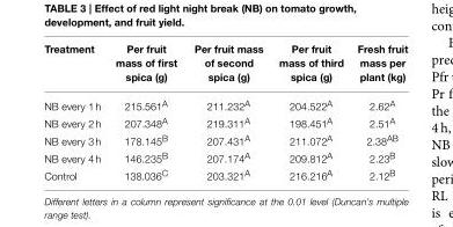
<table><thead><tr><td>Treatment</td><td>Per fruit mass of first spica (g)</td><td>Per fruit mass of second spica (g)</td><td>Per fruit mass of third spica (g)</td><td>Fresh fruit mass per plant (kg)</td></tr></thead><tbody><tr><td>NB every 1 h</td><td>215.561<sup>A</sup></td><td>211.232<sup>A</sup></td><td>204.522<sup>A</sup></td><td>2.62<sup>A</sup></td></tr><tr><td>NB every 2 h</td><td>207.348<sup>A</sup></td><td>219.311<sup>A</sup></td><td>198.451<sup>A</sup></td><td>2.51<sup>A</sup></td></tr><tr><td>NB every 3 h</td><td>178.145<sup>B</sup></td><td>207.431<sup>A</sup></td><td>211.072<sup>A</sup></td><td>2.38<sup>AB</sup></td></tr><tr><td>NB every 4 h</td><td>146.235<sup>B</sup></td><td>207.174<sup>A</sup></td><td>209.812<sup>A</sup></td><td>2.23<sup>B</sup></td></tr><tr><td>Control</td><td>138.036<sup>C</sup></td><td>203.321<sup>A</sup></td><td>216.216<sup>A</sup></td><td>2.12<sup>B</sup></td></tr></tbody></table>